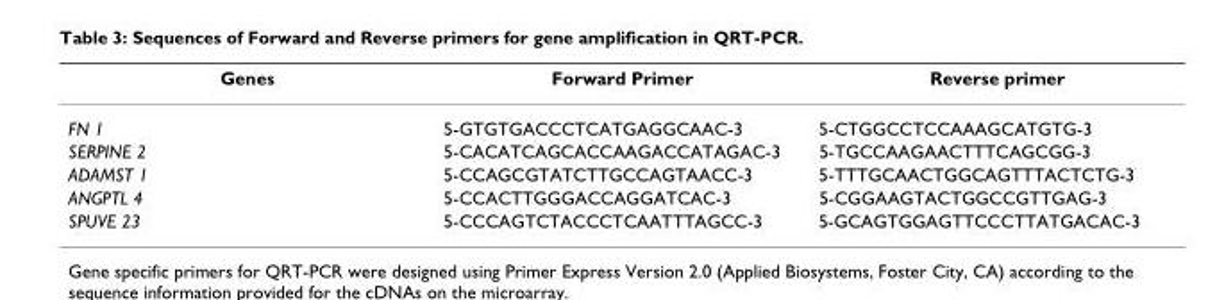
<table><thead><tr><td>Genes</td><td>Forward Primer</td><td>Reverse primer</td></tr></thead><tbody><tr><td>FN 1</td><td>5-GTGTGACCCTCATGAGGCAAC-3</td><td>5-CTGGCCTCCAAAGCATGTG-3</td></tr><tr><td>SERPINE 2</td><td>5-CACATCAGCACCAAGACCATAGAC-3</td><td>5-TGCCAAGAACTTTCAGCGG-3</td></tr><tr><td>ADAMST 1</td><td>5-CCAGCGTATCTTGCCAGTAACC-3</td><td>5-TTTGCAACTGGCAGTTTACTCTG-3</td></tr><tr><td>ANGPTL 4</td><td>5-CCACTTGGGACCAGGATCAC-3</td><td>5-CGGAAGTACTGGCCGTTGAG-3</td></tr><tr><td>SPUVE 23</td><td>5-CCCAGTCTACCCTCAATTTAGCC-3</td><td>5-GCAGTGGAGTTCCCTTATGACAC-3</td></tr></tbody></table>